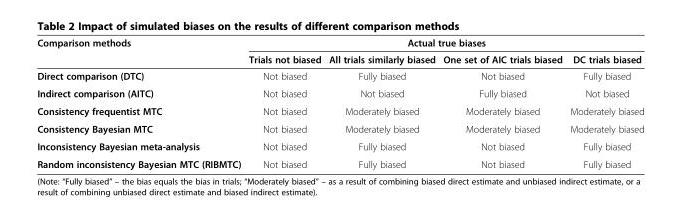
<table><thead><tr><td rowspan="2">Comparison methods</td><td colspan="4">Actual true biases</td></tr><tr><td>Trials not biased</td><td>All trials similarly biased</td><td>One set of AIC trials biased</td><td>DC trials biased</td></tr></thead><tbody><tr><td>Direct comparison (DTC)</td><td>Not biased</td><td>Fully biased</td><td>Not biased</td><td>Fully biased</td></tr><tr><td>Indirect comparison (AITC)</td><td>Not biased</td><td>Not biased</td><td>Fully biased</td><td>Not biased</td></tr><tr><td>Consistency frequentist MTC</td><td>Not biased</td><td>Moderately biased</td><td>Moderately biased</td><td>Moderately biased</td></tr><tr><td>Consistency Bayesian MTC</td><td>Not biased</td><td>Moderately biased</td><td>Moderately biased</td><td>Moderately biased</td></tr><tr><td>Inconsistency Bayesian meta-analysis</td><td>Not biased</td><td>Fully biased</td><td>Not biased</td><td>Fully biased</td></tr><tr><td>Random inconsistency Bayesian MTC (RIBMTC)</td><td>Not biased</td><td>Fully biased</td><td>Not biased</td><td>Fully biased</td></tr></tbody></table>